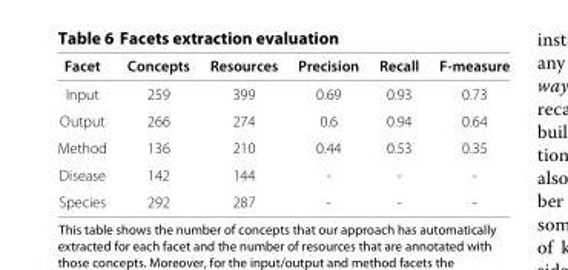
<table><thead><tr><td>Facet</td><td>Concepts</td><td>Resources</td><td>Precision</td><td>Recall</td><td>F-measure</td></tr></thead><tbody><tr><td>Input</td><td>259</td><td>399</td><td>0.69</td><td>0.93</td><td>0.73</td></tr><tr><td>Output</td><td>266</td><td>274</td><td>0.6</td><td>0.94</td><td>0.64</td></tr><tr><td>Method</td><td>136</td><td>210</td><td>0.44</td><td>0.53</td><td>0.35</td></tr><tr><td>Disease</td><td>142</td><td>144</td><td>-</td><td>-</td><td>-</td></tr><tr><td>Species</td><td>292</td><td>287</td><td>-</td><td>-</td><td>-</td></tr></tbody></table>